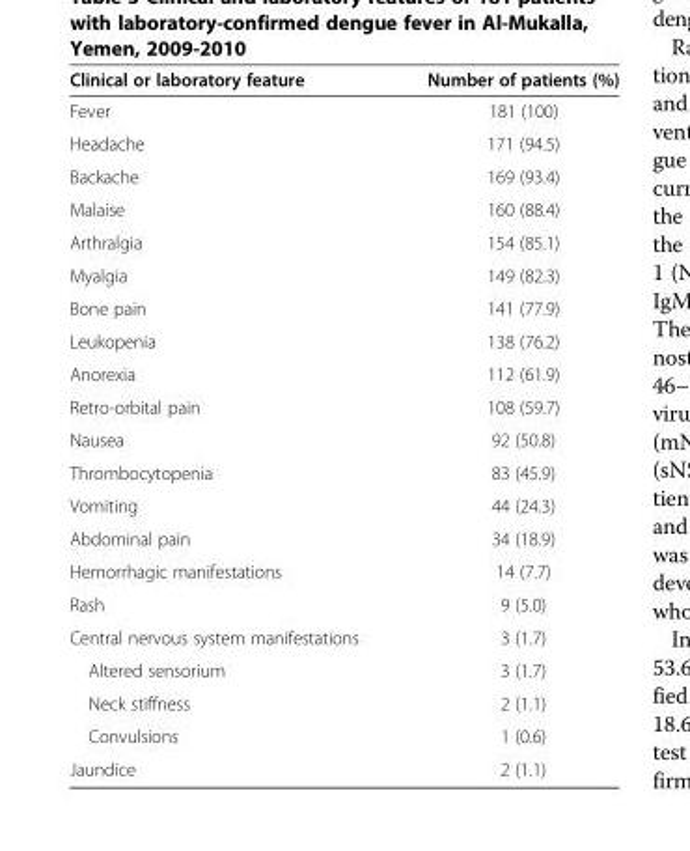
<table><thead><tr><td>Clinical or laboratory feature</td><td>Number of patients (%)</td></tr></thead><tbody><tr><td>Fever</td><td>181 (100)</td></tr><tr><td>Headache</td><td>171 (94.5)</td></tr><tr><td>Backache</td><td>169 (93.4)</td></tr><tr><td>Malaise</td><td>160 (88.4)</td></tr><tr><td>Arthralgia</td><td>154 (85.1)</td></tr><tr><td>Myalgia</td><td>149 (82.3)</td></tr><tr><td>Bone pain</td><td>141 (77.9)</td></tr><tr><td>Leukopenia</td><td>138 (76.2)</td></tr><tr><td>Anorexia</td><td>112 (61.9)</td></tr><tr><td>Retro-orbital pain</td><td>108 (59.7)</td></tr><tr><td>Nausea</td><td>92 (50.8)</td></tr><tr><td>Thrombocytopenia</td><td>83 (45.9)</td></tr><tr><td>Vomiting</td><td>44 (24.3)</td></tr><tr><td>Abdominal pain</td><td>34 (18.9)</td></tr><tr><td>Hemorrhagic manifestations</td><td>14 (7.7)</td></tr><tr><td>Rash</td><td>9 (5.0)</td></tr><tr><td>Central nervous system manifestations</td><td>3 (1.7)</td></tr><tr><td>Altered sensorium</td><td>3 (1.7)</td></tr><tr><td>Neck stiffness</td><td>2 (1.1)</td></tr><tr><td>Convulsions</td><td>1 (0.6)</td></tr><tr><td>Jaundice</td><td>2 (1.1)</td></tr></tbody></table>